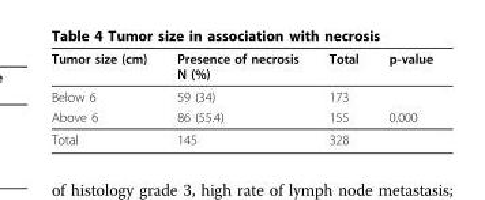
<table><thead><tr><td>Tumor size (cm)</td><td>Presence of necrosis N (%)</td><td>Total</td><td>p-value</td></tr></thead><tbody><tr><td>Below 6</td><td>59 (34)</td><td>173</td><td></td></tr><tr><td>Above 6</td><td>86 (55.4)</td><td>155</td><td>0.000</td></tr><tr><td>Total</td><td>145</td><td>328</td><td></td></tr></tbody></table>